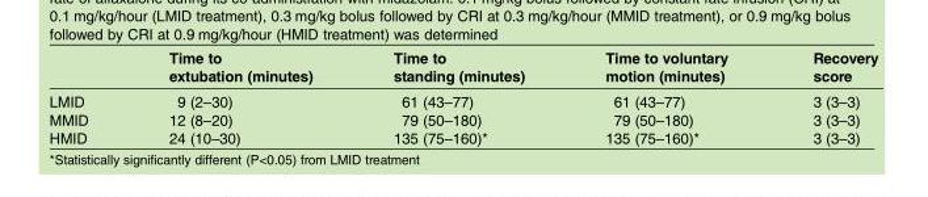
<table><thead><tr><td></td><td>Time to extubation (minutes)</td><td>Time to standing (minutes)</td><td>Time to voluntary motion (minutes)</td><td>Recovery score</td></tr></thead><tbody><tr><td>LMID</td><td>9 (2–30)</td><td>61 (43–77)</td><td>61 (43–77)</td><td>3 (3–3)</td></tr><tr><td>MMID</td><td>12 (8–20)</td><td>79 (50–180)</td><td>79 (50–180)</td><td>3 (3–3)</td></tr><tr><td>HMID</td><td>24 (10–30)</td><td>135 (75–160)*</td><td>135 (75–160)*</td><td>3 (3–3)</td></tr></tbody></table>